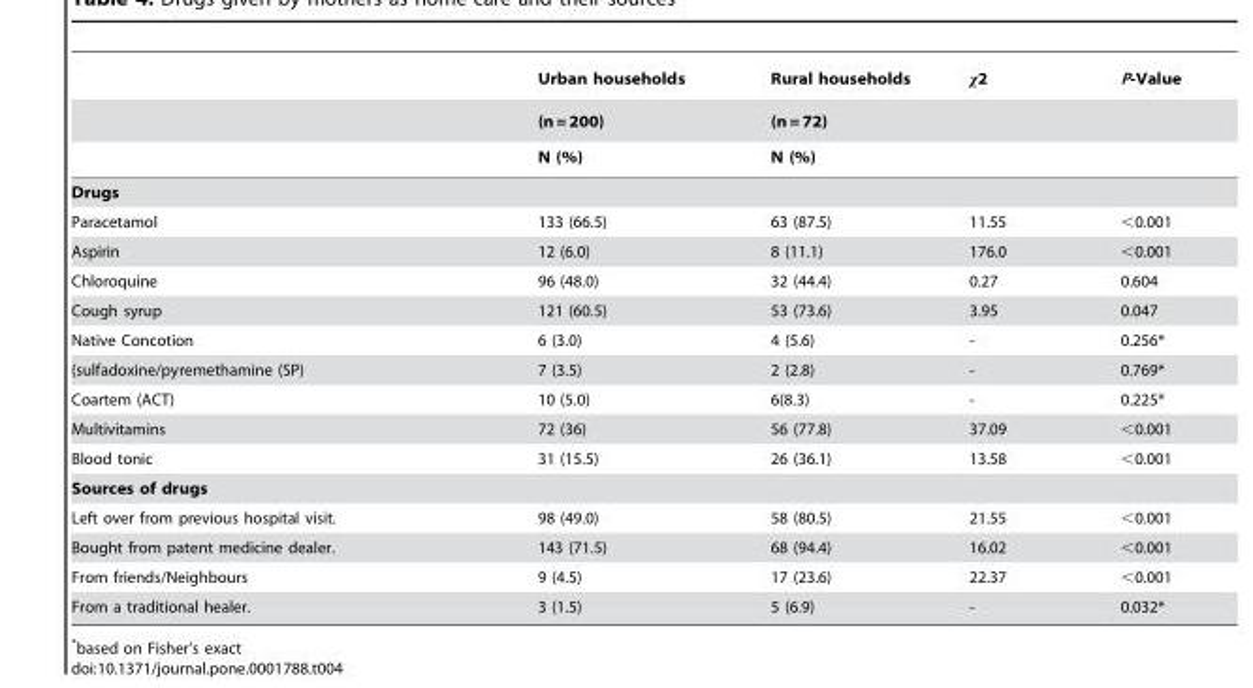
<table><thead><tr><td rowspan="3"></td><td rowspan="3">Urban households (n = 200) N (%)</td><td rowspan="3">Rural households (n = 72) N (%)</td><td rowspan="3">χ2</td><td rowspan="3">P-Value</td></tr><tr></tr><tr></tr></thead><tbody><tr><td colspan="5">Drugs</td></tr><tr><td>Paracetamol</td><td>133 (66.5)</td><td>63 (87.5)</td><td>11.55</td><td>&lt;0.001</td></tr><tr><td>Aspirin</td><td>12 (6.0)</td><td>8 (11.1)</td><td>176.0</td><td>&lt;0.001</td></tr><tr><td>Chloroquine</td><td>96 (48.0)</td><td>32 (44.4)</td><td>0.27</td><td>0.604</td></tr><tr><td>Cough syrup</td><td>121 (60.5)</td><td>53 (73.6)</td><td>3.95</td><td>0.047</td></tr><tr><td>Native Concotion</td><td>6 (3.0)</td><td>4 (5.6)</td><td>-</td><td>0.256*</td></tr><tr><td>(sulfadoxine/pyremethamine (SP)</td><td>7 (3.5)</td><td>2 (2.8)</td><td>-</td><td>0.769*</td></tr><tr><td>Coartem (ACT)</td><td>10 (5.0)</td><td>6(8.3)</td><td>-</td><td>0.225*</td></tr><tr><td>Multivitamins</td><td>72 (36)</td><td>56 (77.8)</td><td>37.09</td><td>&lt;0.001</td></tr><tr><td>Blood tonic</td><td>31 (15.5)</td><td>26 (36.1)</td><td>13.58</td><td>&lt;0.001</td></tr><tr><td colspan="5">Sources of drugs</td></tr><tr><td>Left over from previous hospital visit.</td><td>98 (49.0)</td><td>58 (80.5)</td><td>21.55</td><td>&lt;0.001</td></tr><tr><td>Bought from patent medicine dealer.</td><td>143 (71.5)</td><td>68 (94.4)</td><td>16.02</td><td>&lt;0.001</td></tr><tr><td>From friends/Neighbours</td><td>9 (4.5)</td><td>17 (23.6)</td><td>22.37</td><td>&lt;0.001</td></tr><tr><td>From a traditional healer.</td><td>3 (1.5)</td><td>5 (6.9)</td><td>-</td><td>0.032*</td></tr></tbody></table>